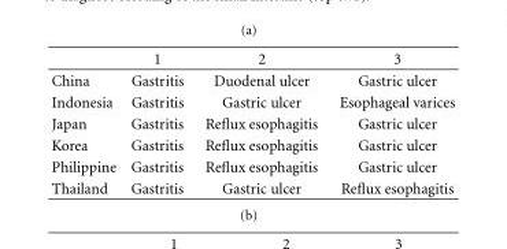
<table><thead><tr><td></td><td>1</td><td>2</td><td>3</td></tr></thead><tbody><tr><td>China</td><td>Gastritis</td><td>Duodenal ulcer</td><td>Gastric ulcer</td></tr><tr><td>Indonesia</td><td>Gastritis</td><td>Gastric ulcer</td><td>Esophageal varices</td></tr><tr><td>Japan</td><td>Gastritis</td><td>Reflux esophagitis</td><td>Gastric ulcer</td></tr><tr><td>Korea</td><td>Gastritis</td><td>Reflux esophagitis</td><td>Gastric ulcer</td></tr><tr><td>Philippine</td><td>Gastritis</td><td>Reflux esophagitis</td><td>Gastric ulcer</td></tr><tr><td>Thailand</td><td>Gastritis</td><td>Gastric ulcer</td><td>Reflux esophagitis</td></tr></tbody></table>